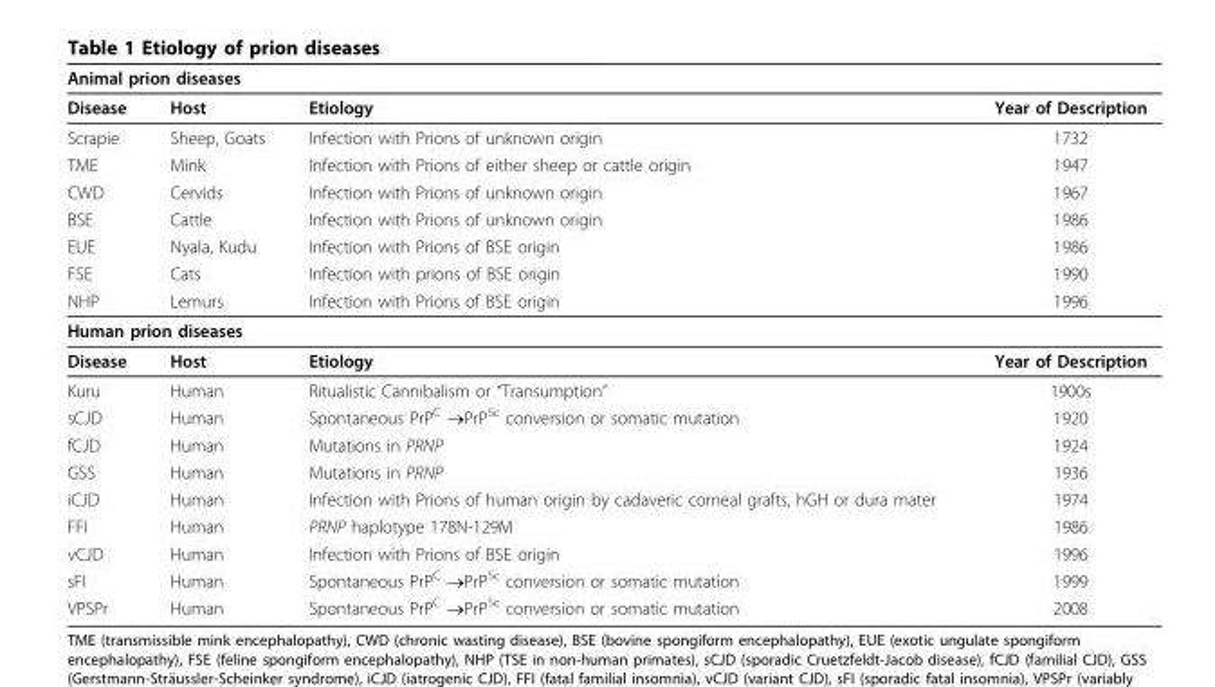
<table><thead><tr><td colspan="4">Animal prion diseases</td></tr><tr><td>Disease</td><td>Host</td><td>Etiology</td><td>Year of Description</td></tr></thead><tbody><tr><td>Scrapie</td><td>Sheep, Goats</td><td>Infection with Prions of unknown origin</td><td>1732</td></tr><tr><td>TME</td><td>Mink</td><td>Infection with Prions of either sheep or cattle origin</td><td>1947</td></tr><tr><td>CWD</td><td>Cervids</td><td>Infection with Prions of unknown origin</td><td>1967</td></tr><tr><td>BSE</td><td>Cattle</td><td>Infection with Prions of unknown origin</td><td>1986</td></tr><tr><td>EUE</td><td>Nyala, Kudu</td><td>Infection with Prions of BSE origin</td><td>1986</td></tr><tr><td>FSE</td><td>Cats</td><td>Infection with prions of BSE origin</td><td>1990</td></tr><tr><td>NHP</td><td>Lemurs</td><td>Infection with Prions of BSE origin</td><td>1996</td></tr><tr><td colspan="4">Human prion diseases</td></tr><tr><td>Disease</td><td>Host</td><td>Etiology</td><td>Year of Description</td></tr><tr><td>Kuru</td><td>Human</td><td>Ritualistic Cannibalism or “Transumption”</td><td>1900s</td></tr><tr><td>sCJD</td><td>Human</td><td>Spontaneous PrP<sup>C</sup> →PrP<sup>Sc</sup> conversion or somatic mutation</td><td>1920</td></tr><tr><td>fCJD</td><td>Human</td><td>Mutations in PRNP</td><td>1924</td></tr><tr><td>GSS</td><td>Human</td><td>Mutations in PRNP</td><td>1936</td></tr><tr><td>iCJD</td><td>Human</td><td>Infection with Prions of human origin by cadaveric corneal grafts, hGH or dura mater</td><td>1974</td></tr><tr><td>FFI</td><td>Human</td><td>PRNP haplotype 178N-129M</td><td>1986</td></tr><tr><td>vCJD</td><td>Human</td><td>Infection with Prions of BSE origin</td><td>1996</td></tr><tr><td>sFI</td><td>Human</td><td>Spontaneous PrP<sup>C</sup> →PrP<sup>Sc</sup> conversion or somatic mutation</td><td>1999</td></tr><tr><td>VPSPr</td><td>Human</td><td>Spontaneous PrP<sup>C</sup> →PrP<sup>Sc</sup> conversion or somatic mutation</td><td>2008</td></tr></tbody></table>